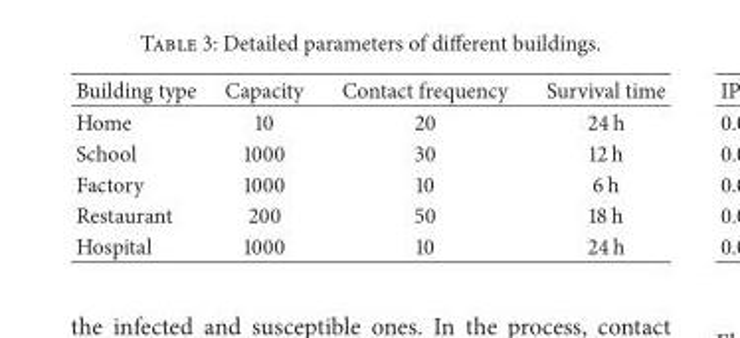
<table><thead><tr><td>Building type</td><td>Capacity</td><td>Contact frequency</td><td>Survival time</td></tr></thead><tbody><tr><td>Home</td><td>10</td><td>20</td><td>24 h</td></tr><tr><td>School</td><td>1000</td><td>30</td><td>12 h</td></tr><tr><td>Factory</td><td>1000</td><td>10</td><td>6 h</td></tr><tr><td>Restaurant</td><td>200</td><td>50</td><td>18 h</td></tr><tr><td>Hospital</td><td>1000</td><td>10</td><td>24 h</td></tr></tbody></table>